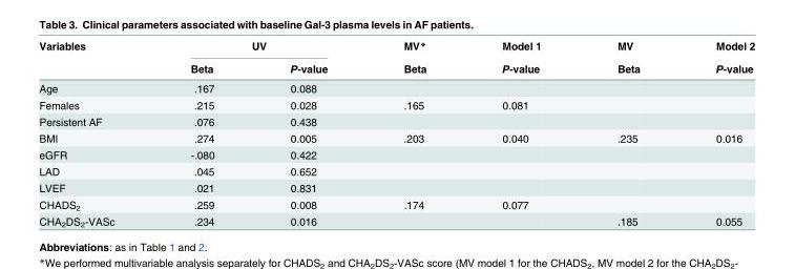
<table><thead><tr><td rowspan="2">Variables</td><td colspan="2">UV</td><td rowspan="2">MV* Beta</td><td rowspan="2">Model 1 P-value</td><td rowspan="2">MV Beta</td><td rowspan="2">Model 2 P-value</td></tr><tr><td>Beta</td><td>P-value</td></tr></thead><tbody><tr><td>Age</td><td>.167</td><td>0.088</td><td></td><td></td><td></td><td></td></tr><tr><td>Females</td><td>.215</td><td>0.028</td><td>.165</td><td>0.081</td><td></td><td></td></tr><tr><td>Persistent AF</td><td>.076</td><td>0.438</td><td></td><td></td><td></td><td></td></tr><tr><td>BMI</td><td>.274</td><td>0.005</td><td>.203</td><td>0.040</td><td>.235</td><td>0.016</td></tr><tr><td>eGFR</td><td>-.080</td><td>0.422</td><td></td><td></td><td></td><td></td></tr><tr><td>LAD</td><td>.045</td><td>0.652</td><td></td><td></td><td></td><td></td></tr><tr><td>LVEF</td><td>.021</td><td>0.831</td><td></td><td></td><td></td><td></td></tr><tr><td>CHADS<sub>2</sub></td><td>.259</td><td>0.008</td><td>.174</td><td>0.077</td><td></td><td></td></tr><tr><td>CHA<sub>2</sub>DS<sub>2</sub>-VASc</td><td>.234</td><td>0.016</td><td></td><td></td><td>.185</td><td>0.055</td></tr></tbody></table>